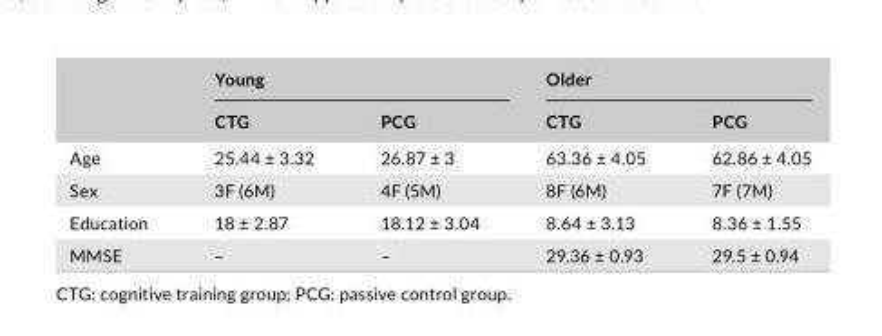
<table><thead><tr><td rowspan="2"></td><td colspan="2">Young</td><td colspan="2">Older</td></tr><tr><td>CTG</td><td>PCG</td><td>CTG</td><td>PCG</td></tr></thead><tbody><tr><td>Age</td><td>25.44 ± 3.32</td><td>26.87 ± 3</td><td>63.36 ± 4.05</td><td>62.86 ± 4.05</td></tr><tr><td>Sex</td><td>3F (6M)</td><td>4F (5M)</td><td>8F (6M)</td><td>7F (7M)</td></tr><tr><td>Education</td><td>18 ± 2.87</td><td>18.12 ± 3.04</td><td>8.64 ± 3.13</td><td>8.36 ± 1.55</td></tr><tr><td>MMSE</td><td>–</td><td>–</td><td>29.36 ± 0.93</td><td>29.5 ± 0.94</td></tr></tbody></table>